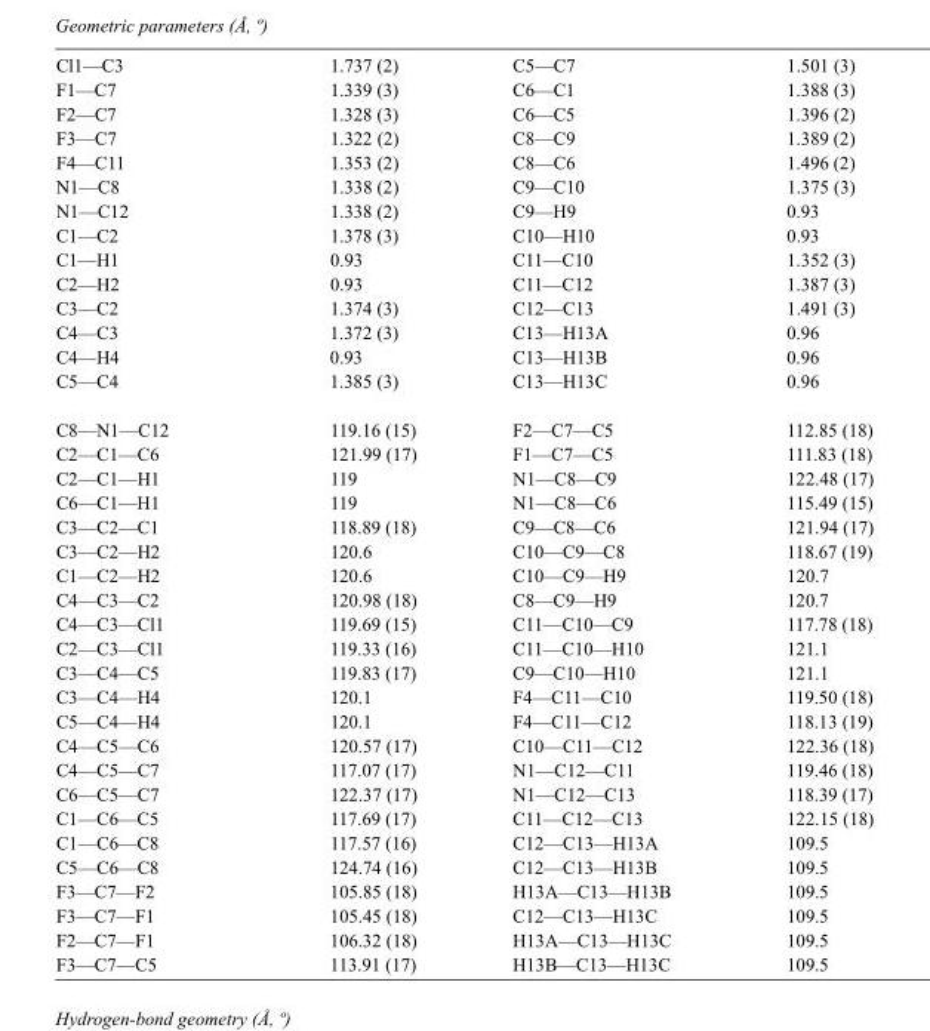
<table><tbody><tr><td>Cl1—C3</td><td>1.737 (2)</td><td>C5—C7</td><td>1.501 (3)</td></tr><tr><td>F1—C7</td><td>1.339 (3)</td><td>C6—C1</td><td>1.388 (3)</td></tr><tr><td>F2—C7</td><td>1.328 (3)</td><td>C6—C5</td><td>1.396 (2)</td></tr><tr><td>F3—C7</td><td>1.322 (2)</td><td>C8—C9</td><td>1.389 (2)</td></tr><tr><td>F4—C11</td><td>1.353 (2)</td><td>C8—C6</td><td>1.496 (2)</td></tr><tr><td>N1—C8</td><td>1.338 (2)</td><td>C9—C10</td><td>1.375 (3)</td></tr><tr><td>N1—C12</td><td>1.338 (2)</td><td>C9—H9</td><td>0.93</td></tr><tr><td>C1—C2</td><td>1.378 (3)</td><td>C10—H10</td><td>0.93</td></tr><tr><td>C1—H1</td><td>0.93</td><td>C11—C10</td><td>1.352 (3)</td></tr><tr><td>C2—H2</td><td>0.93</td><td>C11—C12</td><td>1.387 (3)</td></tr><tr><td>C3—C2</td><td>1.374 (3)</td><td>C12—C13</td><td>1.491 (3)</td></tr><tr><td>C4—C3</td><td>1.372 (3)</td><td>C13—H13A</td><td>0.96</td></tr><tr><td>C4—H4</td><td>0.93</td><td>C13—H13B</td><td>0.96</td></tr><tr><td>C5—C4</td><td>1.385 (3)</td><td>C13—H13C</td><td>0.96</td></tr><tr><td>C8—N1—C12</td><td>119.16 (15)</td><td>F2—C7—C5</td><td>112.85 (18)</td></tr><tr><td>C2—C1—C6</td><td>121.99 (17)</td><td>F1—C7—C5</td><td>111.83 (18)</td></tr><tr><td>C2—C1—H1</td><td>119</td><td>N1—C8—C9</td><td>122.48 (17)</td></tr><tr><td>C6—C1—H1</td><td>119</td><td>N1—C8—C6</td><td>115.49 (15)</td></tr><tr><td>C3—C2—C1</td><td>118.89 (18)</td><td>C9—C8—C6</td><td>121.94 (17)</td></tr><tr><td>C3—C2—H2</td><td>120.6</td><td>C10—C9—C8</td><td>118.67 (19)</td></tr><tr><td>C1—C2—H2</td><td>120.6</td><td>C10—C9—H9</td><td>120.7</td></tr><tr><td>C4—C3—C2</td><td>120.98 (18)</td><td>C8—C9—H9</td><td>120.7</td></tr><tr><td>C4—C3—Cl1</td><td>119.69 (15)</td><td>C11—C10—C9</td><td>117.78 (18)</td></tr><tr><td>C2—C3—Cl1</td><td>119.33 (16)</td><td>C11—C10—H10</td><td>121.1</td></tr><tr><td>C3—C4—C5</td><td>119.83 (17)</td><td>C9—C10—H10</td><td>121.1</td></tr><tr><td>C3—C4—H4</td><td>120.1</td><td>F4—C11—C10</td><td>119.50 (18)</td></tr><tr><td>C5—C4—H4</td><td>120.1</td><td>F4—C11—C12</td><td>118.13 (19)</td></tr><tr><td>C4—C5—C6</td><td>120.57 (17)</td><td>C10—C11—C12</td><td>122.36 (18)</td></tr><tr><td>C4—C5—C7</td><td>117.07 (17)</td><td>N1—C12—C11</td><td>119.46 (18)</td></tr><tr><td>C6—C5—C7</td><td>122.37 (17)</td><td>N1—C12—C13</td><td>118.39 (17)</td></tr><tr><td>C1—C6—C5</td><td>117.69 (17)</td><td>C11—C12—C13</td><td>122.15 (18)</td></tr><tr><td>C1—C6—C8</td><td>117.57 (16)</td><td>C12—C13—H13A</td><td>109.5</td></tr><tr><td>C5—C6—C8</td><td>124.74 (16)</td><td>C12—C13—H13B</td><td>109.5</td></tr><tr><td>F3—C7—F2</td><td>105.85 (18)</td><td>H13A—C13—H13B</td><td>109.5</td></tr><tr><td>F3—C7—F1</td><td>105.45 (18)</td><td>C12—C13—H13C</td><td>109.5</td></tr><tr><td>F2—C7—F1</td><td>106.32 (18)</td><td>H13A—C13—H13C</td><td>109.5</td></tr><tr><td>F3—C7—C5</td><td>113.91 (17)</td><td>H13B—C13—H13C</td><td>109.5</td></tr></tbody></table>